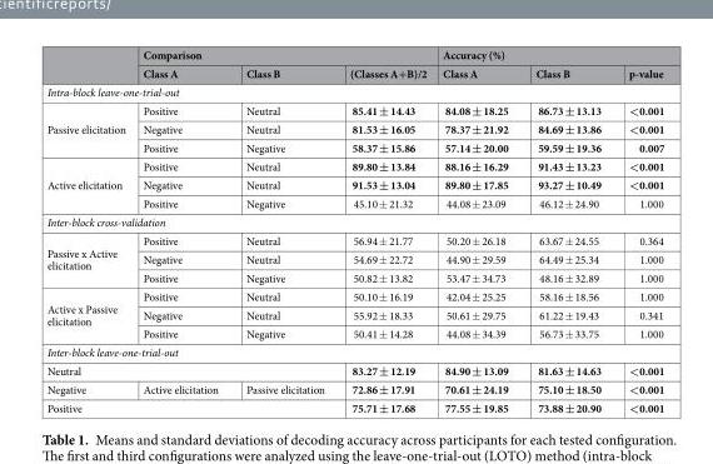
<table><thead><tr><td rowspan="2"></td><td colspan="3">Comparison</td><td colspan="3">Accuracy (%)</td></tr><tr><td>Class A</td><td>Class B</td><td>(Classes A+B)/2</td><td>Class A</td><td>Class B</td><td>p-value</td></tr></thead><tbody><tr><td colspan="7">Intra-block leave-one-trial-out</td></tr><tr><td rowspan="3">Passive elicitation</td><td>Positive</td><td>Neutral</td><td>85.41 ± 14.43</td><td>84.08 ± 18.25</td><td>86.73 ± 13.13</td><td>&lt;0.001</td></tr><tr><td>Negative</td><td>Neutral</td><td>81.53 ± 16.05</td><td>78.37 ± 21.92</td><td>84.69 ± 13.86</td><td>&lt;0.001</td></tr><tr><td>Positive</td><td>Negative</td><td>58.37 ± 15.86</td><td>57.14 ± 20.00</td><td>59.59 ± 19.36</td><td>0.007</td></tr><tr><td rowspan="3">Active elicitation</td><td>Positive</td><td>Neutral</td><td>89.80 ± 13.84</td><td>88.16 ± 16.29</td><td>91.43 ± 13.23</td><td>&lt;0.001</td></tr><tr><td>Negative</td><td>Neutral</td><td>91.53 ± 13.04</td><td>89.80 ± 17.85</td><td>93.27 ± 10.49</td><td>&lt;0.001</td></tr><tr><td>Positive</td><td>Negative</td><td>45.10 ± 21.32</td><td>44.08 ± 23.09</td><td>46.12 ± 24.90</td><td>1.000</td></tr><tr><td colspan="7">Inter-block cross-validation</td></tr><tr><td rowspan="3">Passive x Active elicitation</td><td>Positive</td><td>Neutral</td><td>56.94 ± 21.77</td><td>50.20 ± 26.18</td><td>63.67 ± 24.55</td><td>0.364</td></tr><tr><td>Negative</td><td>Neutral</td><td>54.69 ± 22.72</td><td>44.90 ± 29.59</td><td>64.49 ± 25.34</td><td>1.000</td></tr><tr><td>Positive</td><td>Negative</td><td>50.82 ± 13.82</td><td>53.47 ± 34.73</td><td>48.16 ± 32.89</td><td>1.000</td></tr><tr><td rowspan="3">Active x Passive elicitation</td><td>Positive</td><td>Neutral</td><td>50.10 ± 16.19</td><td>42.04 ± 25.25</td><td>58.16 ± 18.56</td><td>1.000</td></tr><tr><td>Negative</td><td>Neutral</td><td>55.92 ± 18.33</td><td>50.61 ± 29.75</td><td>61.22 ± 19.43</td><td>0.341</td></tr><tr><td>Positive</td><td>Negative</td><td>50.41 ± 14.28</td><td>44.08 ± 34.39</td><td>56.73 ± 33.75</td><td>1.000</td></tr><tr><td colspan="7">Inter-block leave-one-trial-out</td></tr><tr><td colspan="3">Neutral</td><td>83.27 ± 12.19</td><td>84.90 ± 13.09</td><td>81.63 ± 14.63</td><td>&lt;0.001</td></tr><tr><td>Negative</td><td>Active elicitation</td><td>Passive elicitation</td><td>72.86 ± 17.91</td><td>70.61 ± 24.19</td><td>75.10 ± 18.50</td><td>&lt;0.001</td></tr><tr><td colspan="3">Positive</td><td>75.71 ± 17.68</td><td>77.55 ± 19.85</td><td>73.88 ± 20.90</td><td>&lt;0.001</td></tr></tbody></table>